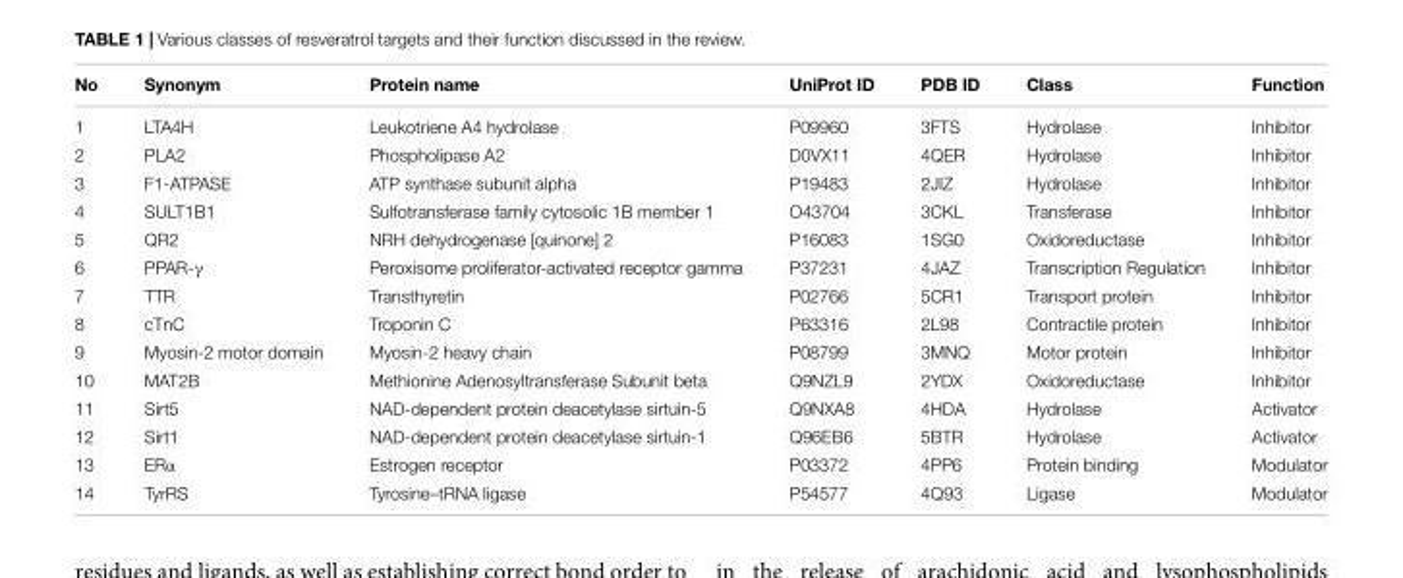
<table><thead><tr><td>No</td><td>Synonym</td><td>Protein name</td><td>UniProt ID</td><td>PDB ID</td><td>Class</td><td>Function</td></tr></thead><tbody><tr><td>1</td><td>LTA4H</td><td>Leukotriene A4 hydrolase</td><td>P09960</td><td>3FTS</td><td>Hydrolase</td><td>Inhibitor</td></tr><tr><td>2</td><td>PLA2</td><td>Phospholipase A2</td><td>D0VX11</td><td>4QER</td><td>Hydrolase</td><td>Inhibitor</td></tr><tr><td>3</td><td>F1-ATPASE</td><td>ATP synthase subunit alpha</td><td>P19483</td><td>2JIZ</td><td>Hydrolase</td><td>Inhibitor</td></tr><tr><td>4</td><td>SULT1B1</td><td>Sulfotransferase family cytosolic 1B member 1</td><td>O43704</td><td>3CKL</td><td>Transferase</td><td>Inhibitor</td></tr><tr><td>5</td><td>QR2</td><td>NRH dehydrogenase [quinone] 2</td><td>P16083</td><td>1SG0</td><td>Oxidoreductase</td><td>Inhibitor</td></tr><tr><td>6</td><td>PPAR-γ</td><td>Peroxisome proliferator-activated receptor gamma</td><td>P37231</td><td>4JAZ</td><td>Transcription Regulation</td><td>Inhibitor</td></tr><tr><td>7</td><td>TTR</td><td>Transthyretin</td><td>P02766</td><td>5CR1</td><td>Transport protein</td><td>Inhibitor</td></tr><tr><td>8</td><td>cTnC</td><td>Troponin C</td><td>P63316</td><td>2L98</td><td>Contractile protein</td><td>Inhibitor</td></tr><tr><td>9</td><td>Myosin-2 motor domain</td><td>Myosin-2 heavy chain</td><td>P08799</td><td>3MNQ</td><td>Motor protein</td><td>Inhibitor</td></tr><tr><td>10</td><td>MAT2B</td><td>Methionine Adenosyltransferase Subunit beta</td><td>Q9NZL9</td><td>2YDX</td><td>Oxidoreductase</td><td>Inhibitor</td></tr><tr><td>11</td><td>Sirt5</td><td>NAD-dependent protein deacetylase sirtuin-5</td><td>Q9NXA8</td><td>4HDA</td><td>Hydrolase</td><td>Activator</td></tr><tr><td>12</td><td>Sirt1</td><td>NAD-dependent protein deacetylase sirtuin-1</td><td>Q96EB6</td><td>5BTR</td><td>Hydrolase</td><td>Activator</td></tr><tr><td>13</td><td>ERα</td><td>Estrogen receptor</td><td>P03372</td><td>4PP6</td><td>Protein binding</td><td>Modulator</td></tr><tr><td>14</td><td>TyrRS</td><td>Tyrosine–tRNA ligase</td><td>P54577</td><td>4Q93</td><td>Ligase</td><td>Modulator</td></tr></tbody></table>